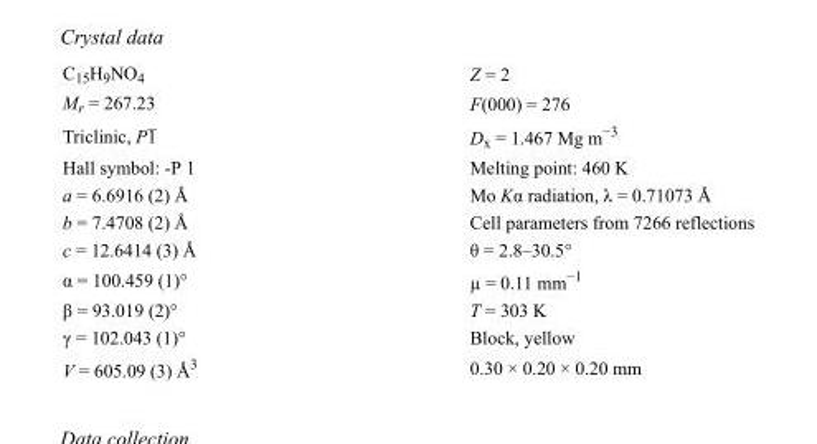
<table><tbody><tr><td>C<sub>15</sub>H<sub>9</sub>NO<sub>4</sub></td><td>Z = 2</td></tr><tr><td>M<sub>r</sub> = 267.23</td><td>F(000) = 276</td></tr><tr><td>Triclinic, P1</td><td>D<sub>x</sub> = 1.467 Mg m<sup>−3</sup></td></tr><tr><td>Hall symbol: -P 1</td><td>Melting point: 460 K</td></tr><tr><td>a = 6.6916 (2) Å</td><td>Mo Kα radiation, λ = 0.71073 Å</td></tr><tr><td>b = 7.4708 (2) Å</td><td>Cell parameters from 7266 reflections</td></tr><tr><td>c = 12.6414 (3) Å</td><td>θ = 2.8–30.5°</td></tr><tr><td>α = 100.459 (1)°</td><td>µ = 0.11 mm<sup>−1</sup></td></tr><tr><td>β = 93.019 (2)°</td><td>T = 303 K</td></tr><tr><td>γ = 102.043 (1)°</td><td>Block, yellow</td></tr><tr><td>V = 605.09 (3) Å<sup>3</sup></td><td>0.30 × 0.20 × 0.20 mm</td></tr></tbody></table>